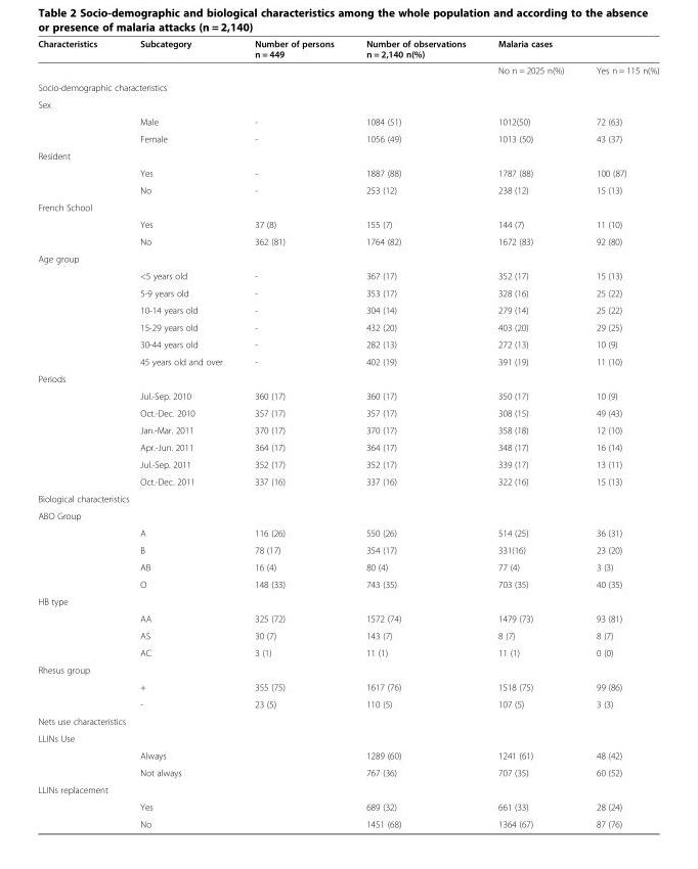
<table><thead><tr><td rowspan="2">Characteristics</td><td rowspan="2">Subcategory</td><td rowspan="2">Number of persons n = 449</td><td rowspan="2">Number of observations n = 2,140 n(%)</td><td colspan="2">Malaria cases</td></tr><tr><td>No n = 2025 n(%)</td><td>Yes n = 115 n(%)</td></tr></thead><tbody><tr><td colspan="6">Socio-demographic characteristics</td></tr><tr><td colspan="6">Sex</td></tr><tr><td></td><td>Male</td><td>-</td><td>1084 (51)</td><td>1012(50)</td><td>72 (63)</td></tr><tr><td></td><td>Female</td><td>-</td><td>1056 (49)</td><td>1013 (50)</td><td>43 (37)</td></tr><tr><td colspan="6">Resident</td></tr><tr><td></td><td>Yes</td><td>-</td><td>1887 (88)</td><td>1787 (88)</td><td>100 (87)</td></tr><tr><td></td><td>No</td><td>-</td><td>253 (12)</td><td>238 (12)</td><td>15 (13)</td></tr><tr><td colspan="6">French School</td></tr><tr><td></td><td>Yes</td><td>37 (8)</td><td>155 (7)</td><td>144 (7)</td><td>11 (10)</td></tr><tr><td></td><td>No</td><td>362 (81)</td><td>1764 (82)</td><td>1672 (83)</td><td>92 (80)</td></tr><tr><td colspan="6">Age group</td></tr><tr><td></td><td>&lt;5 years old</td><td>-</td><td>367 (17)</td><td>352 (17)</td><td>15 (13)</td></tr><tr><td></td><td>5-9 years old</td><td>-</td><td>353 (17)</td><td>328 (16)</td><td>25 (22)</td></tr><tr><td></td><td>10-14 years old</td><td>-</td><td>304 (14)</td><td>279 (14)</td><td>25 (22)</td></tr><tr><td></td><td>15-29 years old</td><td>-</td><td>432 (20)</td><td>403 (20)</td><td>29 (25)</td></tr><tr><td></td><td>30-44 years old</td><td>-</td><td>282 (13)</td><td>272 (13)</td><td>10 (9)</td></tr><tr><td></td><td>45 years old and over</td><td>-</td><td>402 (19)</td><td>391 (19)</td><td>11 (10)</td></tr><tr><td colspan="6">Periods</td></tr><tr><td></td><td>Jul.-Sep. 2010</td><td>360 (17)</td><td>360 (17)</td><td>350 (17)</td><td>10 (9)</td></tr><tr><td></td><td>Oct.-Dec. 2010</td><td>357 (17)</td><td>357 (17)</td><td>308 (15)</td><td>49 (43)</td></tr><tr><td></td><td>Jan.-Mar. 2011</td><td>370 (17)</td><td>370 (17)</td><td>358 (18)</td><td>12 (10)</td></tr><tr><td></td><td>Apr.-Jun. 2011</td><td>364 (17)</td><td>364 (17)</td><td>348 (17)</td><td>16 (14)</td></tr><tr><td></td><td>Jul.-Sep. 2011</td><td>352 (17)</td><td>352 (17)</td><td>339 (17)</td><td>13 (11)</td></tr><tr><td></td><td>Oct.-Dec. 2011</td><td>337 (16)</td><td>337 (16)</td><td>322 (16)</td><td>15 (13)</td></tr><tr><td colspan="6">Biological characteristics</td></tr><tr><td colspan="6">ABO Group</td></tr><tr><td></td><td>A</td><td>116 (26)</td><td>550 (26)</td><td>514 (25)</td><td>36 (31)</td></tr><tr><td></td><td>B</td><td>78 (17)</td><td>354 (17)</td><td>331(16)</td><td>23 (20)</td></tr><tr><td></td><td>AB</td><td>16 (4)</td><td>80 (4)</td><td>77 (4)</td><td>3 (3)</td></tr><tr><td></td><td>O</td><td>148 (33)</td><td>743 (35)</td><td>703 (35)</td><td>40 (35)</td></tr><tr><td colspan="6">HB type</td></tr><tr><td></td><td>AA</td><td>325 (72)</td><td>1572 (74)</td><td>1479 (73)</td><td>93 (81)</td></tr><tr><td></td><td>AS</td><td>30 (7)</td><td>143 (7)</td><td>8 (7)</td><td>8 (7)</td></tr><tr><td></td><td>AC</td><td>3 (1)</td><td>11 (1)</td><td>11 (1)</td><td>0 (0)</td></tr><tr><td colspan="6">Rhesus group</td></tr><tr><td></td><td>+</td><td>355 (75)</td><td>1617 (76)</td><td>1518 (75)</td><td>99 (86)</td></tr><tr><td></td><td>-</td><td>23 (5)</td><td>110 (5)</td><td>107 (5)</td><td>3 (3)</td></tr><tr><td colspan="6">Nets use characteristics</td></tr><tr><td colspan="6">LLINs Use</td></tr><tr><td></td><td>Always</td><td></td><td>1289 (60)</td><td>1241 (61)</td><td>48 (42)</td></tr><tr><td></td><td>Not always</td><td></td><td>767 (36)</td><td>707 (35)</td><td>60 (52)</td></tr><tr><td colspan="6">LLINs replacement</td></tr><tr><td></td><td>Yes</td><td></td><td>689 (32)</td><td>661 (33)</td><td>28 (24)</td></tr><tr><td></td><td>No</td><td></td><td>1451 (68)</td><td>1364 (67)</td><td>87 (76)</td></tr></tbody></table>